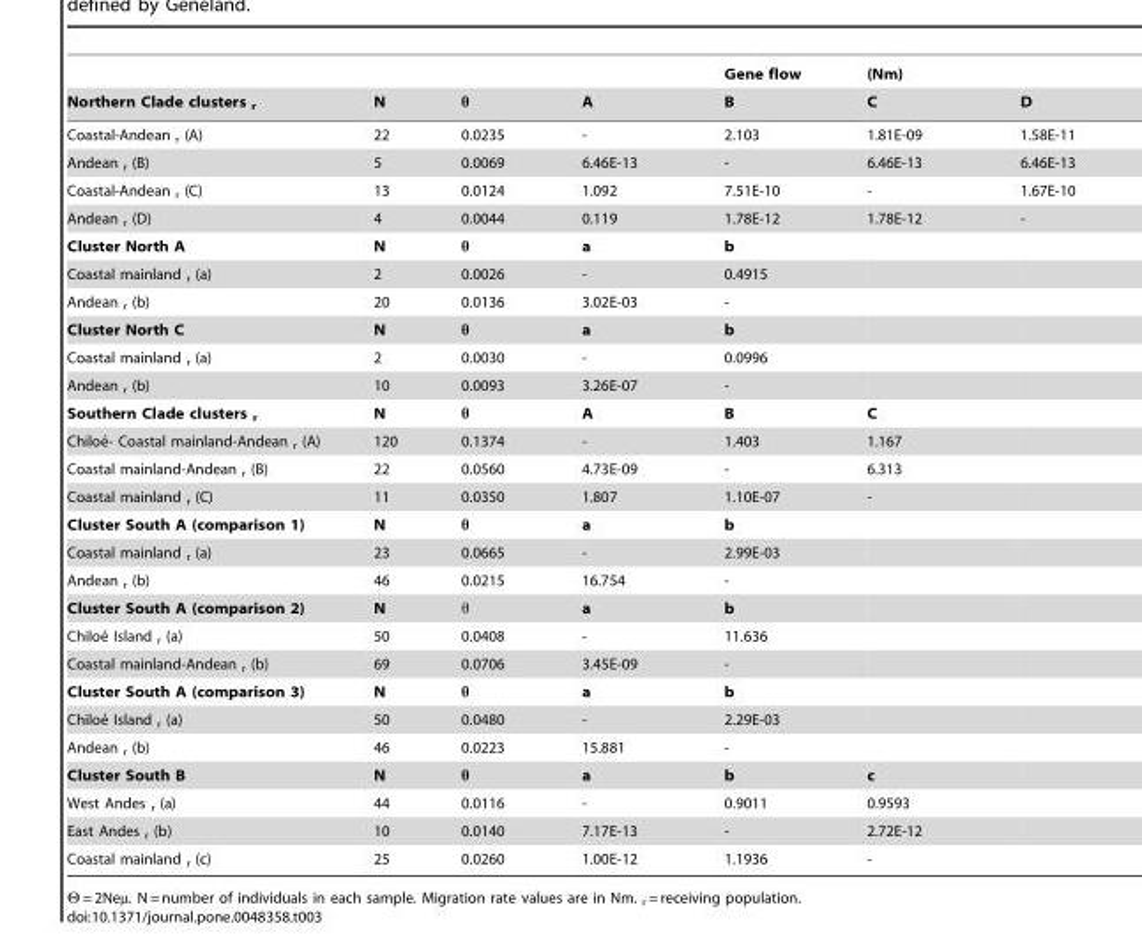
<table><thead><tr><td rowspan="2">Northern Clade clusters <sub>r</sub></td><td rowspan="2">N</td><td rowspan="2">θ</td><td rowspan="2">A</td><td rowspan="2">Gene flow B</td><td rowspan="2">(Nm) C</td><td rowspan="2">D</td></tr><tr></tr></thead><tbody><tr><td>Coastal-Andean <sub>r</sub> (A)</td><td>22</td><td>0.0235</td><td>-</td><td>2.103</td><td>1.81E-09</td><td>1.58E-11</td></tr><tr><td>Andean <sub>r</sub> (B)</td><td>5</td><td>0.0069</td><td>6.46E-13</td><td>-</td><td>6.46E-13</td><td>6.46E-13</td></tr><tr><td>Coastal-Andean <sub>r</sub> (C)</td><td>13</td><td>0.0124</td><td>1.092</td><td>7.51E-10</td><td>-</td><td>1.67E-10</td></tr><tr><td>Andean <sub>r</sub> (D)</td><td>4</td><td>0.0044</td><td>0.119</td><td>1.78E-12</td><td>1.78E-12</td><td>-</td></tr><tr><td>Cluster North A</td><td>N</td><td>θ</td><td>a</td><td>b</td><td></td><td></td></tr><tr><td>Coastal mainland <sub>r</sub> (a)</td><td>2</td><td>0.0026</td><td>-</td><td>0.4915</td><td></td><td></td></tr><tr><td>Andean <sub>r</sub> (b)</td><td>20</td><td>0.0136</td><td>3.02E-03</td><td>-</td><td></td><td></td></tr><tr><td>Cluster North C</td><td>N</td><td>θ</td><td>a</td><td>b</td><td></td><td></td></tr><tr><td>Coastal mainland <sub>r</sub> (a)</td><td>2</td><td>0.0030</td><td>-</td><td>0.0996</td><td></td><td></td></tr><tr><td>Andean <sub>r</sub> (b)</td><td>10</td><td>0.0093</td><td>3.26E-07</td><td>-</td><td></td><td></td></tr><tr><td>Southern Clade clusters <sub>r</sub></td><td>N</td><td>θ</td><td>A</td><td>B</td><td>C</td><td></td></tr><tr><td>Chiloe´- Coastal mainland-Andean r (A)</td><td>120</td><td>0.1374</td><td>-</td><td>1.403</td><td>1.167</td><td></td></tr><tr><td>Coastal mainland-Andean <sub>r</sub> (B)</td><td>22</td><td>0.0560</td><td>4.73E-09</td><td>-</td><td>6.313</td><td></td></tr><tr><td>Coastal mainland <sub>r</sub> (C)</td><td>11</td><td>0.0350</td><td>1.807</td><td>1.10E-07</td><td>-</td><td></td></tr><tr><td>Cluster South A (comparison 1)</td><td>N</td><td>θ</td><td>a</td><td>b</td><td></td><td></td></tr><tr><td>Coastal mainland <sub>r</sub> (a)</td><td>23</td><td>0.0665</td><td>-</td><td>2.99E-03</td><td></td><td></td></tr><tr><td>Andean <sub>r</sub> (b)</td><td>46</td><td>0.0215</td><td>16.754</td><td>-</td><td></td><td></td></tr><tr><td>Cluster South A (comparison 2)</td><td>N</td><td>θ</td><td>a</td><td>b</td><td></td><td></td></tr><tr><td>Chiloe´ Island r (a)</td><td>50</td><td>0.0408</td><td>-</td><td>11.636</td><td></td><td></td></tr><tr><td>Coastal mainland-Andean <sub>r</sub> (b)</td><td>69</td><td>0.0706</td><td>3.45E-09</td><td>-</td><td></td><td></td></tr><tr><td>Cluster South A (comparison 3)</td><td>N</td><td>θ</td><td>a</td><td>b</td><td></td><td></td></tr><tr><td>Chiloe´ Island r (a)</td><td>50</td><td>0.0480</td><td>-</td><td>2.29E-03</td><td></td><td></td></tr><tr><td>Andean <sub>r</sub> (b)</td><td>46</td><td>0.0223</td><td>15.881</td><td>-</td><td></td><td></td></tr><tr><td>Cluster South B</td><td>N</td><td>θ</td><td>a</td><td>b</td><td>c</td><td></td></tr><tr><td>West Andes <sub>r</sub> (a)</td><td>44</td><td>0.0116</td><td>-</td><td>0.9011</td><td>0.9593</td><td></td></tr><tr><td>East Andes <sub>r</sub> (b)</td><td>10</td><td>0.0140</td><td>7.17E-13</td><td>-</td><td>2.72E-12</td><td></td></tr><tr><td>Coastal mainland <sub>r</sub> (c)</td><td>25</td><td>0.0260</td><td>1.00E-12</td><td>1.1936</td><td>-</td><td></td></tr></tbody></table>